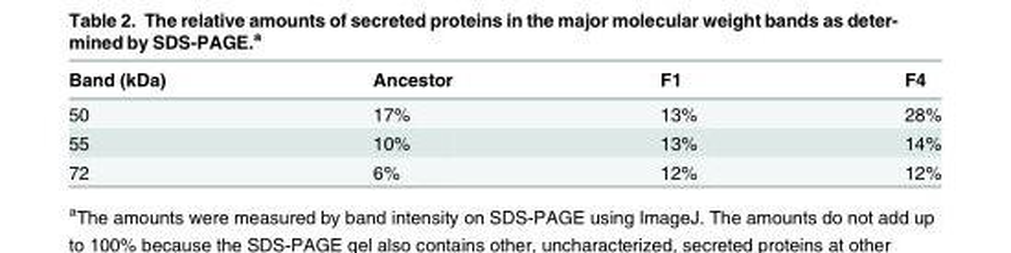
<table><thead><tr><td>Band (kDa)</td><td>Ancestor</td><td>F1</td><td>F4</td></tr></thead><tbody><tr><td>50</td><td>17%</td><td>13%</td><td>28%</td></tr><tr><td>55</td><td>10%</td><td>13%</td><td>14%</td></tr><tr><td>72</td><td>6%</td><td>12%</td><td>12%</td></tr></tbody></table>